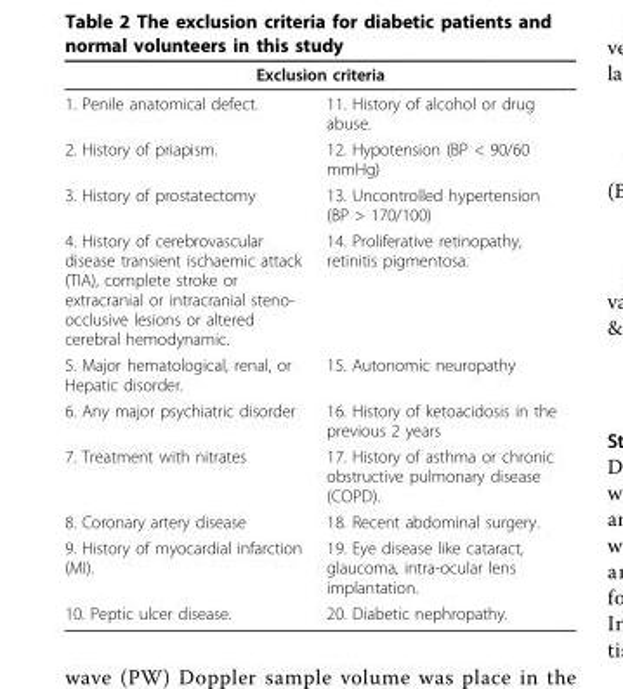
<table><thead><tr><td colspan="2">Exclusion criteria</td></tr><tr><td>1. Penile anatomical defect.</td><td>11. History of alcohol or drug abuse.</td></tr></thead><tbody><tr><td>2. History of priapism.</td><td>12. Hypotension (BP &lt; 90/60 mmHg)</td></tr><tr><td>3. History of prostatectomy</td><td>13. Uncontrolled hypertension (BP &gt; 170/100)</td></tr><tr><td>4. History of cerebrovascular disease transient ischaemic attack (TIA), complete stroke or extracranial or intracranial steno- occlusive lesions or altered cerebral hemodynamic.</td><td>14. Proliferative retinopathy, retinitis pigmentosa.</td></tr><tr><td>5. Major hematological, renal, or Hepatic disorder.</td><td>15. Autonomic neuropathy</td></tr><tr><td>6. Any major psychiatric disorder</td><td>16. History of ketoacidosis in the previous 2 years</td></tr><tr><td>7. Treatment with nitrates</td><td>17. History of asthma or chronic obstructive pulmonary disease (COPD).</td></tr><tr><td>8. Coronary artery disease</td><td>18. Recent abdominal surgery.</td></tr><tr><td>9. History of myocardial infarction (MI).</td><td>19. Eye disease like cataract, glaucoma, intra-ocular lens implantation.</td></tr><tr><td>10. Peptic ulcer disease.</td><td>20. Diabetic nephropathy.</td></tr></tbody></table>